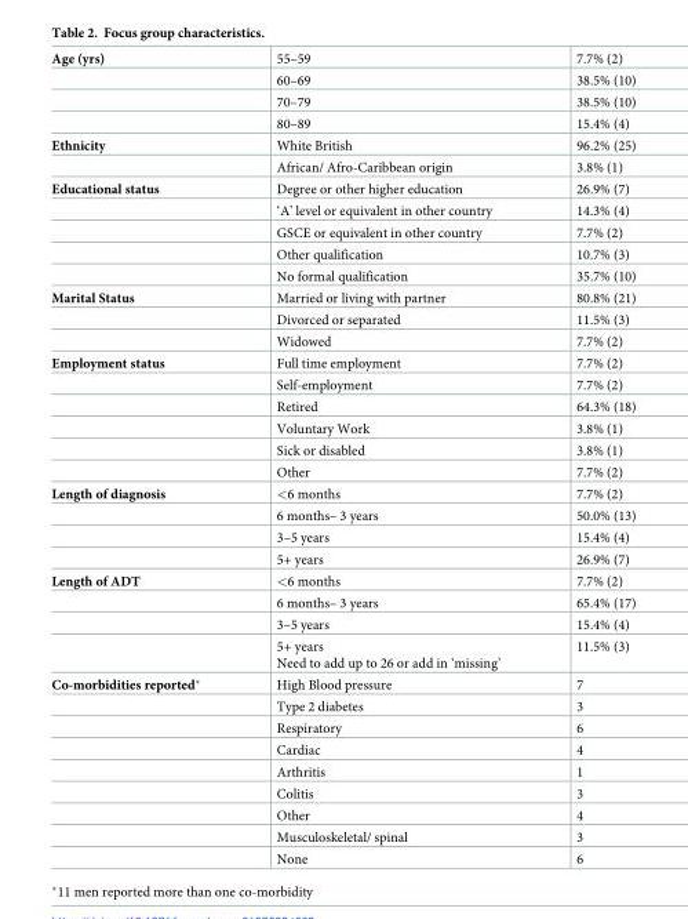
<table><tbody><tr><td rowspan="4">Age (yrs)</td><td>55–59</td><td>7.7% (2)</td></tr><tr><td>60–69</td><td>38.5% (10)</td></tr><tr><td>70–79</td><td>38.5% (10)</td></tr><tr><td>80–89</td><td>15.4% (4)</td></tr><tr><td rowspan="2">Ethnicity</td><td>White British</td><td>96.2% (25)</td></tr><tr><td>African/ Afro-Caribbean origin</td><td>3.8% (1)</td></tr><tr><td rowspan="5">Educational status</td><td>Degree or other higher education</td><td>26.9% (7)</td></tr><tr><td>‘A’ level or equivalent in other country</td><td>14.3% (4)</td></tr><tr><td>GSCE or equivalent in other country</td><td>7.7% (2)</td></tr><tr><td>Other qualification</td><td>10.7% (3)</td></tr><tr><td>No formal qualification</td><td>35.7% (10)</td></tr><tr><td rowspan="3">Marital Status</td><td>Married or living with partner</td><td>80.8% (21)</td></tr><tr><td>Divorced or separated</td><td>11.5% (3)</td></tr><tr><td>Widowed</td><td>7.7% (2)</td></tr><tr><td rowspan="6">Employment status</td><td>Full time employment</td><td>7.7% (2)</td></tr><tr><td>Self-employment</td><td>7.7% (2)</td></tr><tr><td>Retired</td><td>64.3% (18)</td></tr><tr><td>Voluntary Work</td><td>3.8% (1)</td></tr><tr><td>Sick or disabled</td><td>3.8% (1)</td></tr><tr><td>Other</td><td>7.7% (2)</td></tr><tr><td rowspan="4">Length of diagnosis</td><td>&lt;6 months</td><td>7.7% (2)</td></tr><tr><td>6 months– 3 years</td><td>50.0% (13)</td></tr><tr><td>3–5 years</td><td>15.4% (4)</td></tr><tr><td>5+ years</td><td>26.9% (7)</td></tr><tr><td rowspan="4">Length of ADT</td><td>&lt;6 months</td><td>7.7% (2)</td></tr><tr><td>6 months– 3 years</td><td>65.4% (17)</td></tr><tr><td>3–5 years</td><td>15.4% (4)</td></tr><tr><td>5+ years Need to add up to 26 or add in ‘missing’</td><td>11.5% (3)</td></tr><tr><td rowspan="9">Co-morbidities reported*</td><td>High Blood pressure</td><td>7</td></tr><tr><td>Type 2 diabetes</td><td>3</td></tr><tr><td>Respiratory</td><td>6</td></tr><tr><td>Cardiac</td><td>4</td></tr><tr><td>Arthritis</td><td>1</td></tr><tr><td>Colitis</td><td>3</td></tr><tr><td>Other</td><td>4</td></tr><tr><td>Musculoskeletal/ spinal</td><td>3</td></tr><tr><td>None</td><td>6</td></tr></tbody></table>